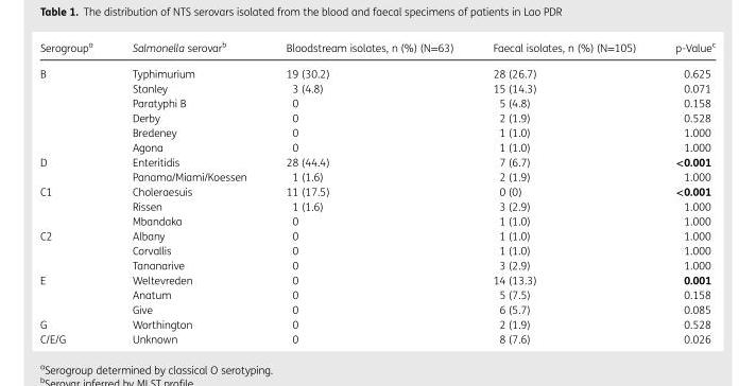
<table><thead><tr><td>Serogroup<sup>a</sup></td><td>Salmonella serovar<sup>b</sup></td><td>Bloodstream isolates, n (%) (N=63)</td><td>Faecal isolates, n (%) (N=105)</td><td>p-Value<sup>c</sup></td></tr></thead><tbody><tr><td rowspan="6">B</td><td>Typhimurium</td><td>19 (30.2)</td><td>28 (26.7)</td><td>0.625</td></tr><tr><td>Stanley</td><td>3 (4.8)</td><td>15 (14.3)</td><td>0.071</td></tr><tr><td>Paratyphi B</td><td>0</td><td>5 (4.8)</td><td>0.158</td></tr><tr><td>Derby</td><td>0</td><td>2 (1.9)</td><td>0.528</td></tr><tr><td>Bredeney</td><td>0</td><td>1 (1.0)</td><td>1.000</td></tr><tr><td>Agona</td><td>0</td><td>1 (1.0)</td><td>1.000</td></tr><tr><td rowspan="2">D</td><td>Enteritidis</td><td>28 (44.4)</td><td>7 (6.7)</td><td>&lt;0.001</td></tr><tr><td>Panama/Miami/Koessen</td><td>1 (1.6)</td><td>2 (1.9)</td><td>1.000</td></tr><tr><td rowspan="3">C1</td><td>Choleraesuis</td><td>11 (17.5)</td><td>0 (0)</td><td>&lt;0.001</td></tr><tr><td>Rissen</td><td>1 (1.6)</td><td>3 (2.9)</td><td>1.000</td></tr><tr><td>Mbandaka</td><td>0</td><td>1 (1.0)</td><td>1.000</td></tr><tr><td rowspan="3">C2</td><td>Albany</td><td>0</td><td>1 (1.0)</td><td>1.000</td></tr><tr><td>Corvallis</td><td>0</td><td>1 (1.0)</td><td>1.000</td></tr><tr><td>Tananarive</td><td>0</td><td>3 (2.9)</td><td>1.000</td></tr><tr><td rowspan="3">E</td><td>Weltevreden</td><td>0</td><td>14 (13.3)</td><td>0.001</td></tr><tr><td>Anatum</td><td>0</td><td>5 (7.5)</td><td>0.158</td></tr><tr><td>Give</td><td>0</td><td>6 (5.7)</td><td>0.085</td></tr><tr><td>G</td><td>Worthington</td><td>0</td><td>2 (1.9)</td><td>0.528</td></tr><tr><td>C/E/G</td><td>Unknown</td><td>0</td><td>8 (7.6)</td><td>0.026</td></tr></tbody></table>